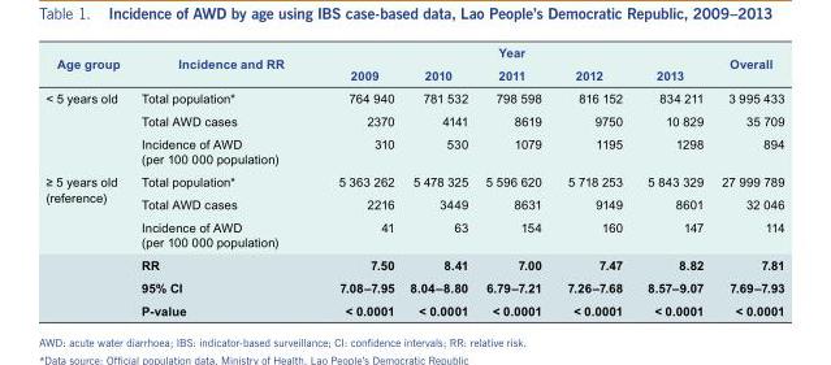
<table><thead><tr><td rowspan="2">Age group</td><td rowspan="2">Incidence and RR</td><td colspan="5">Year</td><td rowspan="2">Overall</td></tr><tr><td>2009</td><td>2010</td><td>2011</td><td>2012</td><td>2013</td></tr></thead><tbody><tr><td rowspan="3">&lt; 5 years old</td><td>Total population*</td><td>764 940</td><td>781 532</td><td>798 598</td><td>816 152</td><td>834 211</td><td>3 995 433</td></tr><tr><td>Total AWD cases</td><td>2370</td><td>4141</td><td>8619</td><td>9750</td><td>10 829</td><td>35 709</td></tr><tr><td>Incidence of AWD (per 100 000 population)</td><td>310</td><td>530</td><td>1079</td><td>1195</td><td>1298</td><td>894</td></tr><tr><td rowspan="6">≥ 5 years old (reference)</td><td>Total population*</td><td>5 363 262</td><td>5 478 325</td><td>5 596 620</td><td>5 718 253</td><td>5 843 329</td><td>27 999 789</td></tr><tr><td>Total AWD cases</td><td>2216</td><td>3449</td><td>8631</td><td>9149</td><td>8601</td><td>32 046</td></tr><tr><td>Incidence of AWD (per 100 000 population)</td><td>41</td><td>63</td><td>154</td><td>160</td><td>147</td><td>114</td></tr><tr><td>RR</td><td>7.50</td><td>8.41</td><td>7.00</td><td>7.47</td><td>8.82</td><td>7.81</td></tr><tr><td>95% CI</td><td>7.08–7.95</td><td>8.04–8.80</td><td>6.79–7.21</td><td>7.26–7.68</td><td>8.57–9.07</td><td>7.69–7.93</td></tr><tr><td>P-value</td><td>&lt; 0.0001</td><td>&lt; 0.0001</td><td>&lt; 0.0001</td><td>&lt; 0.0001</td><td>&lt; 0.0001</td><td>&lt; 0.0001</td></tr></tbody></table>